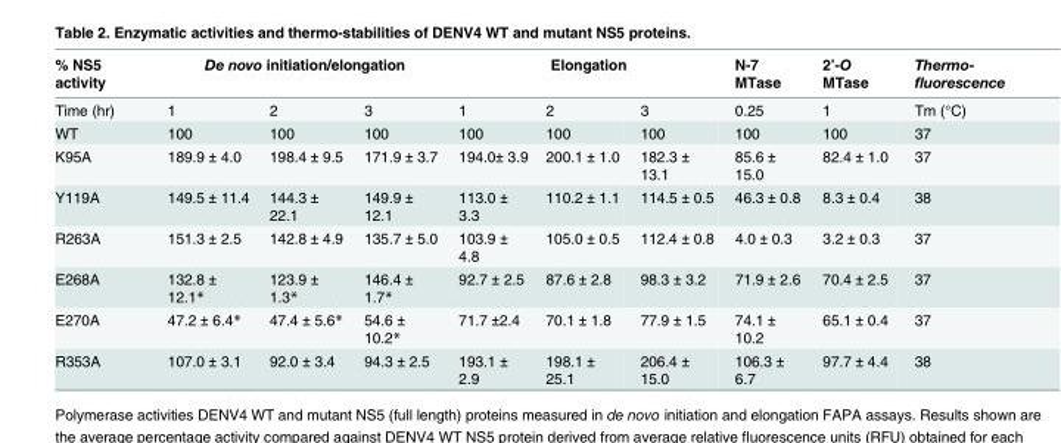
<table><thead><tr><td rowspan="2">% NS5 activity Time (hr)</td><td colspan="3">De novo initiation/elongation</td><td colspan="3">Elongation</td><td rowspan="2">N-7 MTase 0.25</td><td rowspan="2">2’-O MTase 1</td><td rowspan="2">Thermo- fluorescence Tm (°C)</td></tr><tr><td>1</td><td>2</td><td>3</td><td>1</td><td>2</td><td>3</td></tr></thead><tbody><tr><td>WT</td><td>100</td><td>100</td><td>100</td><td>100</td><td>100</td><td>100</td><td>100</td><td>100</td><td>37</td></tr><tr><td>K95A</td><td>189.9 ± 4.0</td><td>198.4 ± 9.5</td><td>171.9 ± 3.7</td><td>194.0± 3.9</td><td>200.1 ± 1.0</td><td>182.3 ± 13.1</td><td>85.6 ± 15.0</td><td>82.4 ± 1.0</td><td>37</td></tr><tr><td>Y119A</td><td>149.5 ± 11.4</td><td>144.3 ± 22.1</td><td>149.9 ± 12.1</td><td>113.0 ± 3.3</td><td>110.2 ± 1.1</td><td>114.5 ± 0.5</td><td>46.3 ± 0.8</td><td>8.3 ± 0.4</td><td>38</td></tr><tr><td>R263A</td><td>151.3 ± 2.5</td><td>142.8 ± 4.9</td><td>135.7 ± 5.0</td><td>103.9 ± 4.8</td><td>105.0 ± 0.5</td><td>112.4 ± 0.8</td><td>4.0 ± 0.3</td><td>3.2 ± 0.3</td><td>37</td></tr><tr><td>E268A</td><td>132.8 ± 12.1*</td><td>123.9 ± 1.3*</td><td>146.4 ± 1.7*</td><td>92.7 ± 2.5</td><td>87.6 ± 2.8</td><td>98.3 ± 3.2</td><td>71.9 ± 2.6</td><td>70.4 ± 2.5</td><td>37</td></tr><tr><td>E270A</td><td>47.2 ± 6.4*</td><td>47.4 ± 5.6*</td><td>54.6 ± 10.2*</td><td>71.7 ±2.4</td><td>70.1 ± 1.8</td><td>77.9 ± 1.5</td><td>74.1 ± 10.2</td><td>65.1 ± 0.4</td><td>37</td></tr><tr><td>R353A</td><td>107.0 ± 3.1</td><td>92.0 ± 3.4</td><td>94.3 ± 2.5</td><td>193.1 ± 2.9</td><td>198.1 ± 25.1</td><td>206.4 ± 15.0</td><td>106.3 ± 6.7</td><td>97.7 ± 4.4</td><td>38</td></tr></tbody></table>